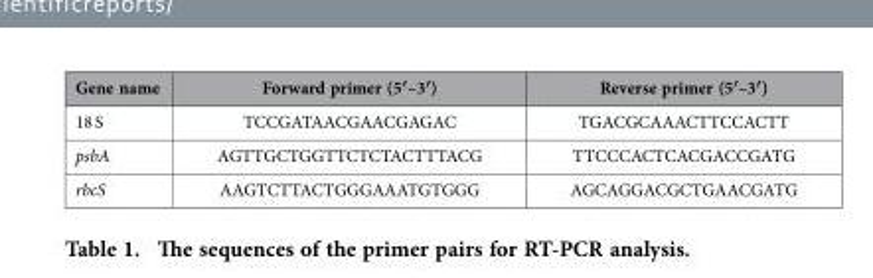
<table><thead><tr><td>Gene name</td><td>Forward primer (5′ –3′ )</td><td>Reverse primer (5′–3′ )</td></tr></thead><tbody><tr><td>18 S</td><td>TCCGATAACGAACGAGAC</td><td>TGACGCAAACTTCCACTT</td></tr><tr><td>psbA</td><td>AGTTGCTGGTTCTCTACTTTACG</td><td>TTCCCACTCACGACCGATG</td></tr><tr><td>rbcS</td><td>AAGTCTTACTGGGAAATGTGGG</td><td>AGCAGGACGCTGAACGATG</td></tr></tbody></table>